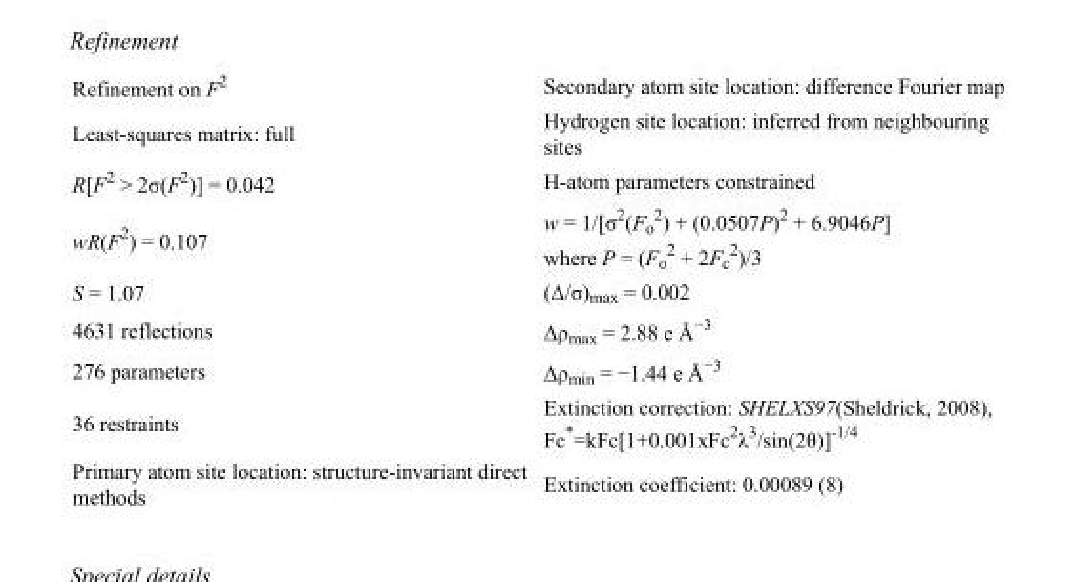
<table><tbody><tr><td>Refinement on F<sup>2</sup></td><td>Secondary atom site location: difference Fourier map</td></tr><tr><td>Least-squares matrix: full</td><td>Hydrogen site location: inferred from neighbouring sites</td></tr><tr><td>R[F<sup>2</sup> &gt; 2σ(F<sup>2</sup>)] = 0.042</td><td>H-atom parameters constrained</td></tr><tr><td>wR(F<sup>2</sup>) = 0.107</td><td>w = 1/[σ<sup>2</sup>(F<sub>o</sub> <sup>2</sup>) + (0.0507P)<sup>2</sup> + 6.9046P] where P = (F<sub>o</sub> <sup>2</sup> + 2F<sub>c</sub> <sup>2</sup>)/3</td></tr><tr><td>S = 1.07</td><td>(Δ/σ)<sub>max</sub> = 0.002</td></tr><tr><td>4631 reflections</td><td>Δρ<sub>max</sub> = 2.88 e Å<sup>−3</sup></td></tr><tr><td>276 parameters</td><td>Δρ<sub>min</sub> = −1.44 e Å<sup>−3</sup></td></tr><tr><td>36 restraints</td><td>Extinction correction: SHELXS97(Sheldrick, 2008), Fc*=kFc[1+0.001xFc<sup>2</sup>λ<sup>3</sup>/sin(2θ)]<sup>-1/4</sup></td></tr><tr><td>Primary atom site location: structure-invariant direct methods</td><td>Extinction coefficient: 0.00089 (8)</td></tr></tbody></table>